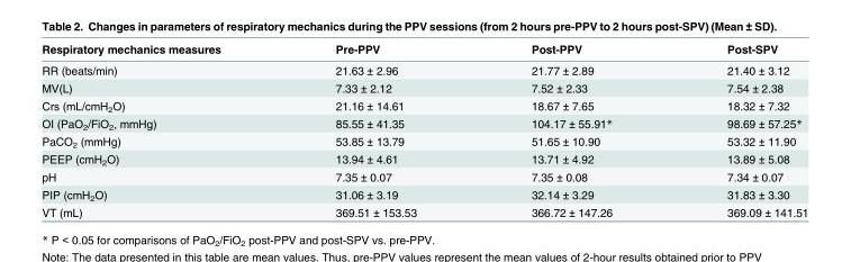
<table><thead><tr><td>Respiratory mechanics measures</td><td>Pre-PPV</td><td>Post-PPV</td><td>Post-SPV</td></tr></thead><tbody><tr><td>RR (beats/min)</td><td>21.63 ± 2.96</td><td>21.77 ± 2.89</td><td>21.40 ± 3.12</td></tr><tr><td>MV(L)</td><td>7.33 ± 2.12</td><td>7.52 ± 2.33</td><td>7.54 ± 2.38</td></tr><tr><td>Crs (mL/cmH<sub>2</sub>O)</td><td>21.16 ± 14.61</td><td>18.67 ± 7.65</td><td>18.32 ± 7.32</td></tr><tr><td>OI (PaO<sub>2</sub>/FiO<sub>2</sub>, mmHg)</td><td>85.55 ± 41.35</td><td>104.17 ± 55.91*</td><td>98.69 ± 57.25*</td></tr><tr><td>PaCO<sub>2</sub> (mmHg)</td><td>53.85 ± 13.79</td><td>51.65 ± 10.90</td><td>53.32 ± 11.90</td></tr><tr><td>PEEP (cmH<sub>2</sub>O)</td><td>13.94 ± 4.61</td><td>13.71 ± 4.92</td><td>13.89 ± 5.08</td></tr><tr><td>pH</td><td>7.35 ± 0.07</td><td>7.35 ± 0.08</td><td>7.34 ± 0.07</td></tr><tr><td>PIP (cmH<sub>2</sub>O)</td><td>31.06 ± 3.19</td><td>32.14 ± 3.29</td><td>31.83 ± 3.30</td></tr><tr><td>VT (mL)</td><td>369.51 ± 153.53</td><td>366.72 ± 147.26</td><td>369.09 ± 141.51</td></tr></tbody></table>